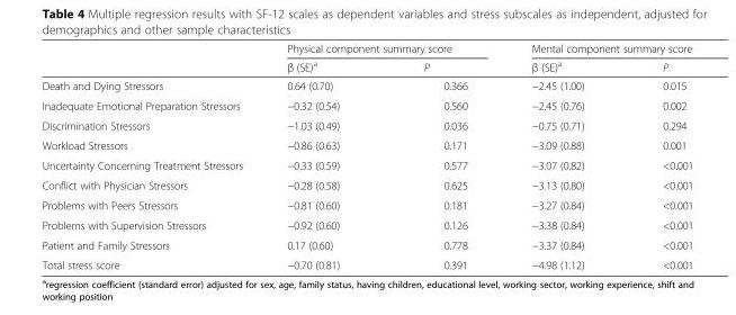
<table><thead><tr><td rowspan="2"></td><td colspan="2">Physical component summary score</td><td colspan="2">Mental component summary score</td></tr><tr><td>β (SE)<sup>a</sup></td><td>P</td><td>β (SE)<sup>a</sup></td><td>P</td></tr></thead><tbody><tr><td>Death and Dying Stressors</td><td>0.64 (0.70)</td><td>0.366</td><td>−2.45 (1.00)</td><td>0.015</td></tr><tr><td>Inadequate Emotional Preparation Stressors</td><td>−0.32 (0.54)</td><td>0.560</td><td>−2.45 (0.76)</td><td>0.002</td></tr><tr><td>Discrimination Stressors</td><td>−1.03 (0.49)</td><td>0.036</td><td>−0.75 (0.71)</td><td>0.294</td></tr><tr><td>Workload Stressors</td><td>−0.86 (0.63)</td><td>0.171</td><td>−3.09 (0.88)</td><td>0.001</td></tr><tr><td>Uncertainty Concerning Treatment Stressors</td><td>−0.33 (0.59)</td><td>0.577</td><td>−3.07 (0.82)</td><td>&lt;0.001</td></tr><tr><td>Conflict with Physician Stressors</td><td>−0.28 (0.58)</td><td>0.625</td><td>−3.13 (0.80)</td><td>&lt;0.001</td></tr><tr><td>Problems with Peers Stressors</td><td>−0.81 (0.60)</td><td>0.181</td><td>−3.27 (0.84)</td><td>&lt;0.001</td></tr><tr><td>Problems with Supervision Stressors</td><td>−0.92 (0.60)</td><td>0.126</td><td>−3.38 (0.84)</td><td>&lt;0.001</td></tr><tr><td>Patient and Family Stressors</td><td>0.17 (0.60)</td><td>0.778</td><td>−3.37 (0.84)</td><td>&lt;0.001</td></tr><tr><td>Total stress score</td><td>−0.70 (0.81)</td><td>0.391</td><td>−4.98 (1.12)</td><td>&lt;0.001</td></tr></tbody></table>